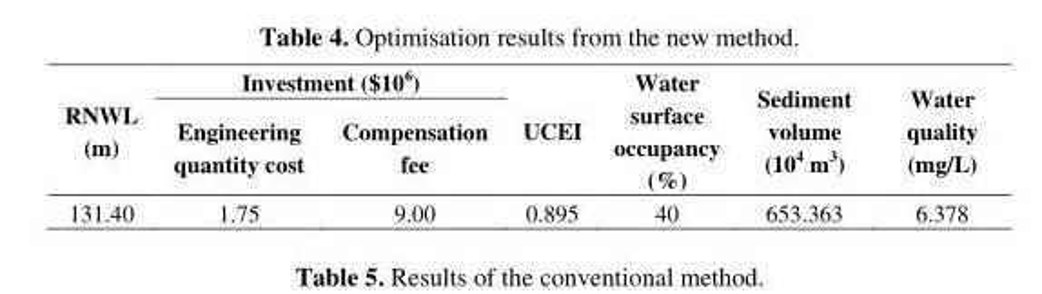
<table><thead><tr><td rowspan="2">RNWL (m)</td><td colspan="2">Investment ($10<sup>6</sup>)</td><td rowspan="2">UCEI</td><td rowspan="2">Water surface occupancy (%)</td><td rowspan="2">Sediment volume (10<sup>4</sup> m<sup>3</sup>)</td><td rowspan="2">Water quality (mg/L)</td></tr><tr><td>Engineering quantity cost</td><td>Compensation fee</td></tr></thead><tbody><tr><td>131.40</td><td>1.75</td><td>9.00</td><td>0.895</td><td>40</td><td>653.363</td><td>6.378</td></tr></tbody></table>